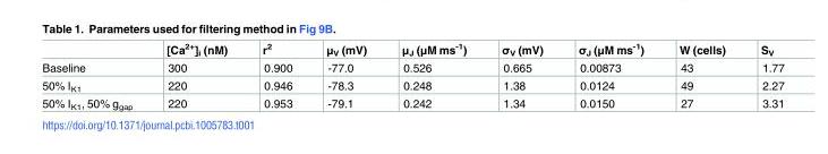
<table><thead><tr><td></td><td>[Ca<sup>2+</sup>]<sub>i</sub> (nM)</td><td>r<sup>2</sup></td><td>μ<sub>V</sub> (mV)</td><td>μ<sub>J</sub> (μM ms<sup>-1</sup>)</td><td>σ<sub>V</sub> (mV)</td><td>σ<sub>J</sub> (μM ms<sup>-1</sup>)</td><td>W (cells)</td><td>S<sub>V</sub></td></tr></thead><tbody><tr><td>Baseline</td><td>300</td><td>0.900</td><td>-77.0</td><td>0.526</td><td>0.665</td><td>0.00873</td><td>43</td><td>1.77</td></tr><tr><td>50% I<sub>K1</sub></td><td>220</td><td>0.946</td><td>-78.3</td><td>0.248</td><td>1.38</td><td>0.0124</td><td>49</td><td>2.27</td></tr><tr><td>50% I<sub>K1</sub>, 50% g<sub>gap</sub></td><td>220</td><td>0.953</td><td>-79.1</td><td>0.242</td><td>1.34</td><td>0.0150</td><td>27</td><td>3.31</td></tr></tbody></table>